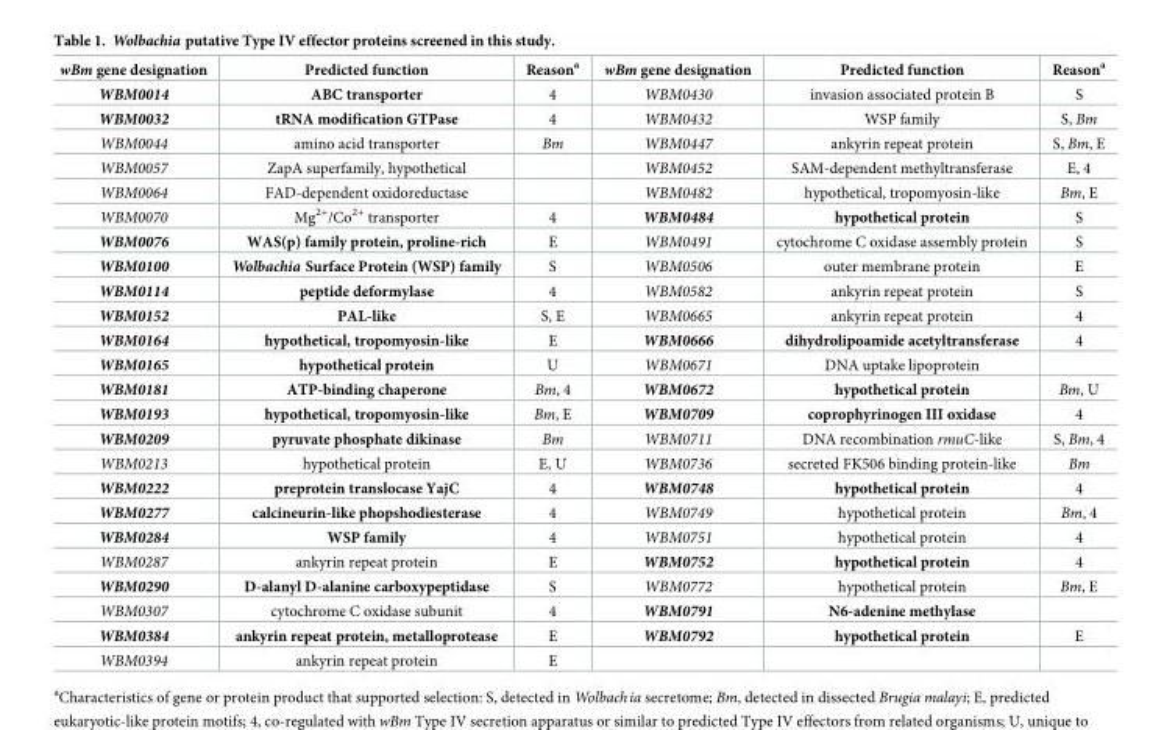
<table><thead><tr><td>wBm gene designation</td><td>Predicted function</td><td>Reason<sup>a</sup></td><td>wBm gene designation</td><td>Predicted function</td><td>Reason<sup>a</sup></td></tr></thead><tbody><tr><td>WBM0014</td><td>ABC transporter</td><td>4</td><td>WBM0430</td><td>invasion associated protein B</td><td>S</td></tr><tr><td>WBM0032</td><td>tRNA modification GTPase</td><td>4</td><td>WBM0432</td><td>WSP family</td><td>S, Bm</td></tr><tr><td>WBM0044</td><td>amino acid transporter</td><td>Bm</td><td>WBM0447</td><td>ankyrin repeat protein</td><td>S, Bm, E</td></tr><tr><td>WBM0057</td><td>ZapA superfamily, hypothetical</td><td></td><td>WBM0452</td><td>SAM-dependent methyltransferase</td><td>E, 4</td></tr><tr><td>WBM0064</td><td>FAD-dependent oxidoreductase</td><td></td><td>WBM0482</td><td>hypothetical, tropomyosin-like</td><td>Bm, E</td></tr><tr><td>WBM0070</td><td>Mg<sup>2+</sup>/Co<sup>2+</sup> transporter</td><td>4</td><td>WBM0484</td><td>hypothetical protein</td><td>S</td></tr><tr><td>WBM0076</td><td>WAS(p) family protein, proline-rich</td><td>E</td><td>WBM0491</td><td>cytochrome C oxidase assembly protein</td><td>S</td></tr><tr><td>WBM0100</td><td>Wolbachia Surface Protein (WSP) family</td><td>S</td><td>WBM0506</td><td>outer membrane protein</td><td>E</td></tr><tr><td>WBM0114</td><td>peptide deformylase</td><td>4</td><td>WBM0582</td><td>ankyrin repeat protein</td><td>S</td></tr><tr><td>WBM0152</td><td>PAL-like</td><td>S, E</td><td>WBM0665</td><td>ankyrin repeat protein</td><td>4</td></tr><tr><td>WBM0164</td><td>hypothetical, tropomyosin-like</td><td>E</td><td>WBM0666</td><td>dihydrolipoamide acetyltransferase</td><td>4</td></tr><tr><td>WBM0165</td><td>hypothetical protein</td><td>U</td><td>WBM0671</td><td>DNA uptake lipoprotein</td><td></td></tr><tr><td>WBM0181</td><td>ATP-binding chaperone</td><td>Bm, 4</td><td>WBM0672</td><td>hypothetical protein</td><td>Bm, U</td></tr><tr><td>WBM0193</td><td>hypothetical, tropomyosin-like</td><td>Bm, E</td><td>WBM0709</td><td>coprophyrinogen III oxidase</td><td>4</td></tr><tr><td>WBM0209</td><td>pyruvate phosphate dikinase</td><td>Bm</td><td>WBM0711</td><td>DNA recombination rmuC-like</td><td>S, Bm, 4</td></tr><tr><td>WBM0213</td><td>hypothetical protein</td><td>E, U</td><td>WBM0736</td><td>secreted FK506 binding protein-like</td><td>Bm</td></tr><tr><td>WBM0222</td><td>preprotein translocase YajC</td><td>4</td><td>WBM0748</td><td>hypothetical protein</td><td>4</td></tr><tr><td>WBM0277</td><td>calcineurin-like phopshodiesterase</td><td>4</td><td>WBM0749</td><td>hypothetical protein</td><td>Bm, 4</td></tr><tr><td>WBM0284</td><td>WSP family</td><td>4</td><td>WBM0751</td><td>hypothetical protein</td><td>4</td></tr><tr><td>WBM0287</td><td>ankyrin repeat protein</td><td>E</td><td>WBM0752</td><td>hypothetical protein</td><td>4</td></tr><tr><td>WBM0290</td><td>D-alanyl D-alanine carboxypeptidase</td><td>S</td><td>WBM0772</td><td>hypothetical protein</td><td>Bm, E</td></tr><tr><td>WBM0307</td><td>cytochrome C oxidase subunit</td><td>4</td><td>WBM0791</td><td>N6-adenine methylase</td><td></td></tr><tr><td>WBM0384</td><td>ankyrin repeat protein, metalloprotease</td><td>E</td><td>WBM0792</td><td>hypothetical protein</td><td>E</td></tr><tr><td>WBM0394</td><td>ankyrin repeat protein</td><td>E</td><td></td><td></td><td></td></tr></tbody></table>